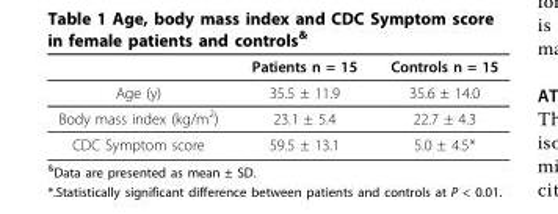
<table><thead><tr><td></td><td>Patients n = 15</td><td>Controls n = 15</td></tr></thead><tbody><tr><td>Age (y)</td><td>35.5 ± 11.9</td><td>35.6 ± 14.0</td></tr><tr><td>Body mass index (kg/m<sup>2</sup>)</td><td>23.1 ± 5.4</td><td>22.7 ± 4.3</td></tr><tr><td>CDC Symptom score</td><td>59.5 ± 13.1</td><td>5.0 ± 4.5*</td></tr></tbody></table>